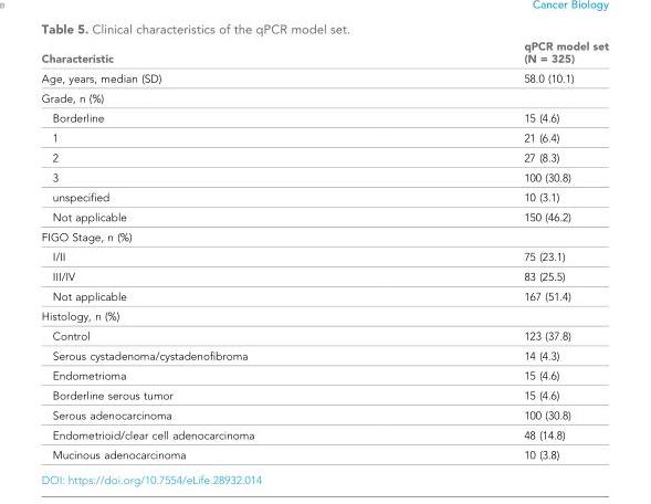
<table><thead><tr><td>Characteristic</td><td>qPCR model set (N = 325)</td></tr></thead><tbody><tr><td>Age, years, median (SD)</td><td>58.0 (10.1)</td></tr><tr><td colspan="2">Grade, n (%)</td></tr><tr><td>Borderline</td><td>15 (4.6)</td></tr><tr><td>1</td><td>21 (6.4)</td></tr><tr><td>2</td><td>27 (8.3)</td></tr><tr><td>3</td><td>100 (30.8)</td></tr><tr><td>unspecified</td><td>10 (3.1)</td></tr><tr><td>Not applicable</td><td>150 (46.2)</td></tr><tr><td colspan="2">FIGO Stage, n (%)</td></tr><tr><td>I/II</td><td>75 (23.1)</td></tr><tr><td>III/IV</td><td>83 (25.5)</td></tr><tr><td>Not applicable</td><td>167 (51.4)</td></tr><tr><td colspan="2">Histology, n (%)</td></tr><tr><td>Control</td><td>123 (37.8)</td></tr><tr><td>Serous cystadenoma/cystadenofibroma</td><td>14 (4.3)</td></tr><tr><td>Endometrioma</td><td>15 (4.6)</td></tr><tr><td>Borderline serous tumor</td><td>15 (4.6)</td></tr><tr><td>Serous adenocarcinoma</td><td>100 (30.8)</td></tr><tr><td>Endometrioid/clear cell adenocarcinoma</td><td>48 (14.8)</td></tr><tr><td>Mucinous adenocarcinoma</td><td>10 (3.8)</td></tr></tbody></table>